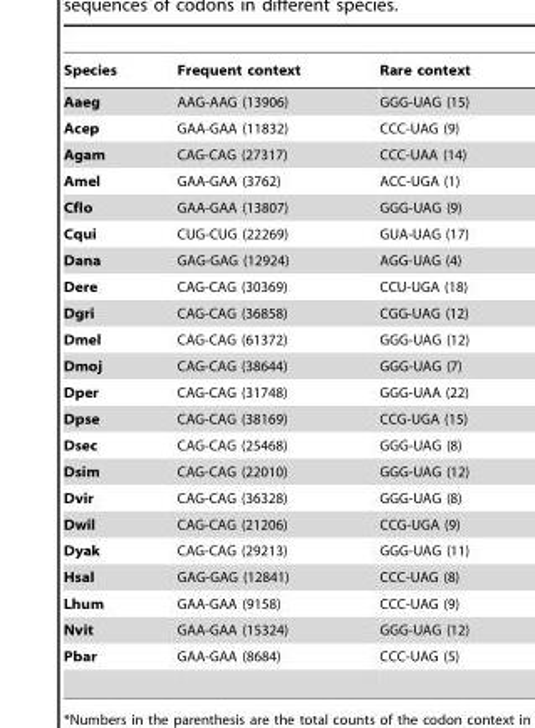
<table><thead><tr><td>Species</td><td>Frequent context</td><td>Rare context</td></tr></thead><tbody><tr><td>Aaeg</td><td>AAG-AAG (13906)</td><td>GGG-UAG (15)</td></tr><tr><td>Acep</td><td>GAA-GAA (11832)</td><td>CCC-UAG (9)</td></tr><tr><td>Agam</td><td>CAG-CAG (27317)</td><td>CCC-UAA (14)</td></tr><tr><td>Amel</td><td>GAA-GAA (3762)</td><td>ACC-UGA (1)</td></tr><tr><td>Cflo</td><td>GAA-GAA (13807)</td><td>GGG-UAG (9)</td></tr><tr><td>Cqui</td><td>CUG-CUG (22269)</td><td>GUA-UAG (17)</td></tr><tr><td>Dana</td><td>GAG-GAG (12924)</td><td>AGG-UAG (4)</td></tr><tr><td>Dere</td><td>CAG-CAG (30369)</td><td>CCU-UGA (18)</td></tr><tr><td>Dgri</td><td>CAG-CAG (36858)</td><td>CGG-UAG (12)</td></tr><tr><td>Dmel</td><td>CAG-CAG (61372)</td><td>GGG-UAG (12)</td></tr><tr><td>Dmoj</td><td>CAG-CAG (38644)</td><td>GGG-UAG (7)</td></tr><tr><td>Dper</td><td>CAG-CAG (31748)</td><td>GGG-UAA (22)</td></tr><tr><td>Dpse</td><td>CAG-CAG (38169)</td><td>CCG-UGA (15)</td></tr><tr><td>Dsec</td><td>CAG-CAG (25468)</td><td>GGG-UAG (8)</td></tr><tr><td>Dsim</td><td>CAG-CAG (22010)</td><td>GGG-UAG (12)</td></tr><tr><td>Dvir</td><td>CAG-CAG (36328)</td><td>GGG-UAG (8)</td></tr><tr><td>Dwil</td><td>CAG-CAG (21206)</td><td>CCG-UGA (9)</td></tr><tr><td>Dyak</td><td>CAG-CAG (29213)</td><td>GGG-UAG (11)</td></tr><tr><td>Hsal</td><td>GAG-GAG (12841)</td><td>CCC-UAG (8)</td></tr><tr><td>Lhum</td><td>GAA-GAA (9158)</td><td>CCC-UAG (9)</td></tr><tr><td>Nvit</td><td>GAA-GAA (15324)</td><td>GGG-UAG (12)</td></tr><tr><td>Pbar</td><td>GAA-GAA (8684)</td><td>CCC-UAG (5)</td></tr></tbody></table>